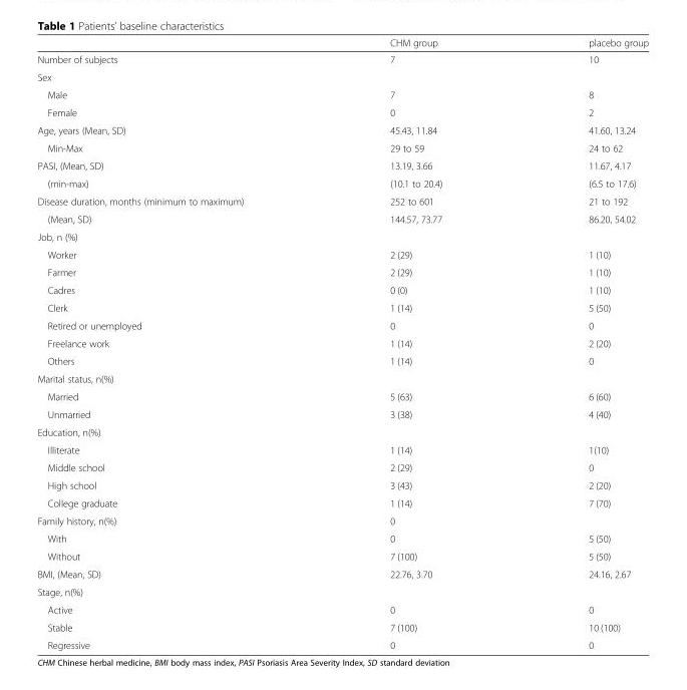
<table><thead><tr><td></td><td>CHM group</td><td>placebo group</td></tr></thead><tbody><tr><td>Number of subjects</td><td>7</td><td>10</td></tr><tr><td colspan="3">Sex</td></tr><tr><td>Male</td><td>7</td><td>8</td></tr><tr><td>Female</td><td>0</td><td>2</td></tr><tr><td>Age, years (Mean, SD)</td><td>45.43, 11.84</td><td>41.60, 13.24</td></tr><tr><td>Min-Max</td><td>29 to 59</td><td>24 to 62</td></tr><tr><td>PASI, (Mean, SD)</td><td>13.19, 3.66</td><td>11.67, 4.17</td></tr><tr><td>(min-max)</td><td>(10.1 to 20.4)</td><td>(6.5 to 17.6)</td></tr><tr><td>Disease duration, months (minimum to maximum)</td><td>252 to 601</td><td>21 to 192</td></tr><tr><td>(Mean, SD)</td><td>144.57, 73.77</td><td>86.20, 54.02</td></tr><tr><td colspan="3">Job, n (%)</td></tr><tr><td>Worker</td><td>2 (29)</td><td>1 (10)</td></tr><tr><td>Farmer</td><td>2 (29)</td><td>1 (10)</td></tr><tr><td>Cadres</td><td>0 (0)</td><td>1 (10)</td></tr><tr><td>Clerk</td><td>1 (14)</td><td>5 (50)</td></tr><tr><td>Retired or unemployed</td><td>0</td><td>0</td></tr><tr><td>Freelance work</td><td>1 (14)</td><td>2 (20)</td></tr><tr><td>Others</td><td>1 (14)</td><td>0</td></tr><tr><td colspan="3">Marital status, n(%)</td></tr><tr><td>Married</td><td>5 (63)</td><td>6 (60)</td></tr><tr><td>Unmarried</td><td>3 (38)</td><td>4 (40)</td></tr><tr><td colspan="3">Education, n(%)</td></tr><tr><td>Illiterate</td><td>1 (14)</td><td>1(10)</td></tr><tr><td>Middle school</td><td>2 (29)</td><td>0</td></tr><tr><td>High school</td><td>3 (43)</td><td>2 (20)</td></tr><tr><td>College graduate</td><td>1 (14)</td><td>7 (70)</td></tr><tr><td>Family history, n(%)</td><td>0</td><td></td></tr><tr><td>With</td><td>0</td><td>5 (50)</td></tr><tr><td>Without</td><td>7 (100)</td><td>5 (50)</td></tr><tr><td>BMI, (Mean, SD)</td><td>22.76, 3.70</td><td>24.16, 2.67</td></tr><tr><td colspan="3">Stage, n(%)</td></tr><tr><td>Active</td><td>0</td><td>0</td></tr><tr><td>Stable</td><td>7 (100)</td><td>10 (100)</td></tr><tr><td>Regressive</td><td>0</td><td>0</td></tr></tbody></table>